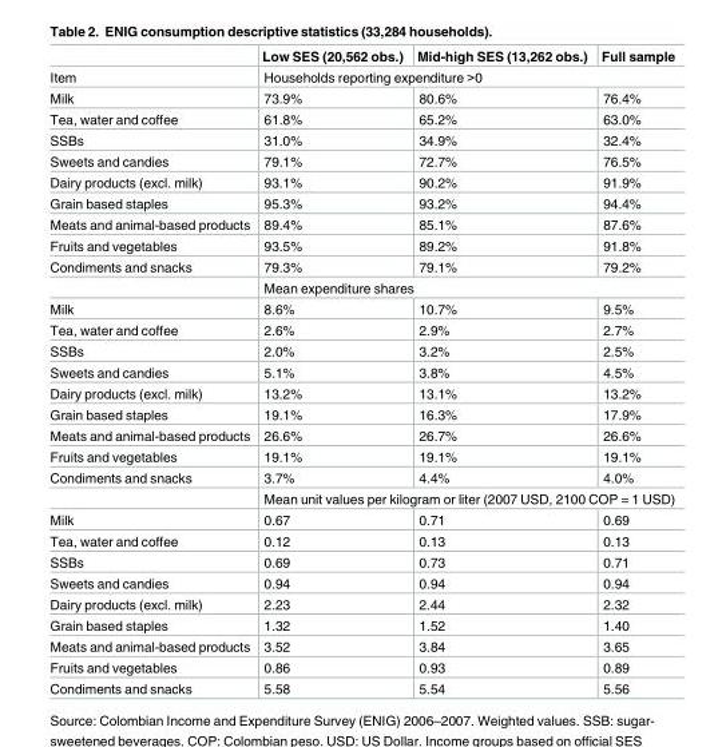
<table><thead><tr><td></td><td>Low SES (20,562 obs.)</td><td>Mid-high SES (13,262 obs.)</td><td>Full sample</td></tr></thead><tbody><tr><td>Item</td><td colspan="3">Households reporting expenditure &gt;0</td></tr><tr><td>Milk</td><td>73.9%</td><td>80.6%</td><td>76.4%</td></tr><tr><td>Tea, water and coffee</td><td>61.8%</td><td>65.2%</td><td>63.0%</td></tr><tr><td>SSBs</td><td>31.0%</td><td>34.9%</td><td>32.4%</td></tr><tr><td>Sweets and candies</td><td>79.1%</td><td>72.7%</td><td>76.5%</td></tr><tr><td>Dairy products (excl. milk)</td><td>93.1%</td><td>90.2%</td><td>91.9%</td></tr><tr><td>Grain based staples</td><td>95.3%</td><td>93.2%</td><td>94.4%</td></tr><tr><td>Meats and animal-based products</td><td>89.4%</td><td>85.1%</td><td>87.6%</td></tr><tr><td>Fruits and vegetables</td><td>93.5%</td><td>89.2%</td><td>91.8%</td></tr><tr><td rowspan="2">Condiments and snacks</td><td>79.3%</td><td>79.1%</td><td>79.2%</td></tr><tr><td colspan="3">Mean expenditure shares</td></tr><tr><td>Milk</td><td>8.6%</td><td>10.7%</td><td>9.5%</td></tr><tr><td>Tea, water and coffee</td><td>2.6%</td><td>2.9%</td><td>2.7%</td></tr><tr><td>SSBs</td><td>2.0%</td><td>3.2%</td><td>2.5%</td></tr><tr><td>Sweets and candies</td><td>5.1%</td><td>3.8%</td><td>4.5%</td></tr><tr><td>Dairy products (excl. milk)</td><td>13.2%</td><td>13.1%</td><td>13.2%</td></tr><tr><td>Grain based staples</td><td>19.1%</td><td>16.3%</td><td>17.9%</td></tr><tr><td>Meats and animal-based products</td><td>26.6%</td><td>26.7%</td><td>26.6%</td></tr><tr><td>Fruits and vegetables</td><td>19.1%</td><td>19.1%</td><td>19.1%</td></tr><tr><td rowspan="2">Condiments and snacks</td><td>3.7%</td><td>4.4%</td><td>4.0%</td></tr><tr><td colspan="3">Mean unit values per kilogram or liter (2007 USD, 2100 COP = 1 USD)</td></tr><tr><td>Milk</td><td>0.67</td><td>0.71</td><td>0.69</td></tr><tr><td>Tea, water and coffee</td><td>0.12</td><td>0.13</td><td>0.13</td></tr><tr><td>SSBs</td><td>0.69</td><td>0.73</td><td>0.71</td></tr><tr><td>Sweets and candies</td><td>0.94</td><td>0.94</td><td>0.94</td></tr><tr><td>Dairy products (excl. milk)</td><td>2.23</td><td>2.44</td><td>2.32</td></tr><tr><td>Grain based staples</td><td>1.32</td><td>1.52</td><td>1.40</td></tr><tr><td>Meats and animal-based products</td><td>3.52</td><td>3.84</td><td>3.65</td></tr><tr><td>Fruits and vegetables</td><td>0.86</td><td>0.93</td><td>0.89</td></tr><tr><td>Condiments and snacks</td><td>5.58</td><td>5.54</td><td>5.56</td></tr></tbody></table>